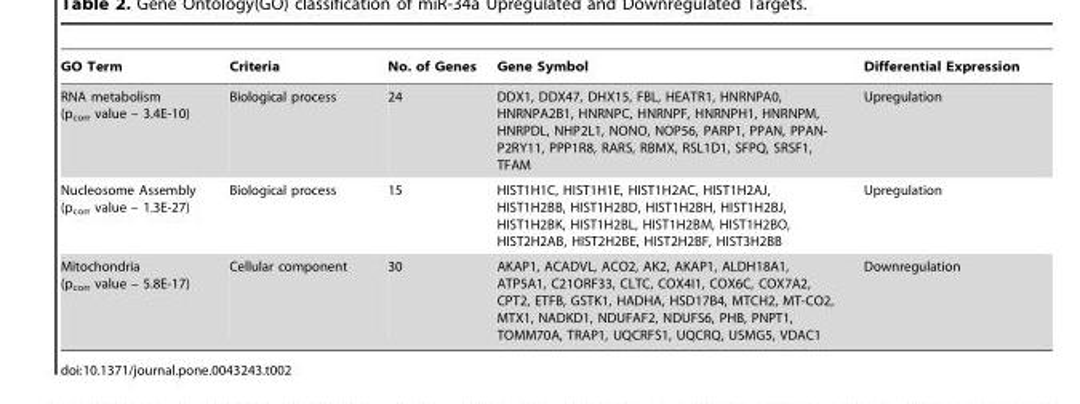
<table><thead><tr><td>GO Term</td><td>Criteria</td><td>No. of Genes</td><td>Gene Symbol</td><td>Differential Expression</td></tr></thead><tbody><tr><td>RNA metabolism (p<sub>corr</sub> value – 3.4E-10)</td><td>Biological process</td><td>24</td><td>DDX1, DDX47, DHX15, FBL, HEATR1, HNRNPA0, HNRNPA2B1, HNRNPC, HNRNPF, HNRNPH1, HNRNPM, HNRPDL, NHP2L1, NONO, NOP56, PARP1, PPAN, PPAN- P2RY11, PPP1R8, RARS, RBMX, RSL1D1, SFPQ, SRSF1, TFAM</td><td>Upregulation</td></tr><tr><td>Nucleosome Assembly (p<sub>corr</sub> value – 1.3E-27)</td><td>Biological process</td><td>15</td><td>HIST1H1C, HIST1H1E, HIST1H2AC, HIST1H2AJ, HIST1H2BB, HIST1H2BD, HIST1H2BH, HIST1H2BJ, HIST1H2BK, HIST1H2BL, HIST1H2BM, HIST1H2BO, HIST2H2AB, HIST2H2BE, HIST2H2BF, HIST3H2BB</td><td>Upregulation</td></tr><tr><td>Mitochondria (p<sub>corr</sub> value – 5.8E-17)</td><td>Cellular component</td><td>30</td><td>AKAP1, ACADVL, ACO2, AK2, AKAP1, ALDH18A1, ATP5A1, C21ORF33, CLTC, COX4I1, COX6C, COX7A2, CPT2, ETFB, GSTK1, HADHA, HSD17B4, MTCH2, MT-CO2, MTX1, NADKD1, NDUFAF2, NDUFS6, PHB, PNPT1, TOMM70A, TRAP1, UQCRFS1, UQCRQ, USMG5, VDAC1</td><td>Downregulation</td></tr></tbody></table>